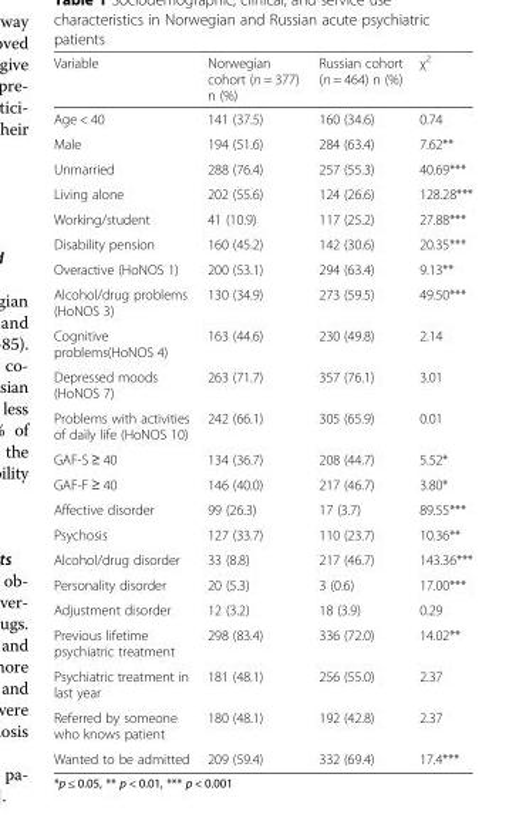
<table><thead><tr><td>Variable</td><td>Norwegian cohort (n = 377) n (%)</td><td>Russian cohort (n = 464) n (%)</td><td>χ<sup>2</sup></td></tr></thead><tbody><tr><td>Age &lt; 40</td><td>141 (37.5)</td><td>160 (34.6)</td><td>0.74</td></tr><tr><td>Male</td><td>194 (51.6)</td><td>284 (63.4)</td><td>7.62**</td></tr><tr><td>Unmarried</td><td>288 (76.4)</td><td>257 (55.3)</td><td>40.69***</td></tr><tr><td>Living alone</td><td>202 (55.6)</td><td>124 (26.6)</td><td>128.28***</td></tr><tr><td>Working/student</td><td>41 (10.9)</td><td>117 (25.2)</td><td>27.88***</td></tr><tr><td>Disability pension</td><td>160 (45.2)</td><td>142 (30.6)</td><td>20.35***</td></tr><tr><td>Overactive (HoNOS 1)</td><td>200 (53.1)</td><td>294 (63.4)</td><td>9.13**</td></tr><tr><td>Alcohol/drug problems (HoNOS 3)</td><td>130 (34.9)</td><td>273 (59.5)</td><td>49.50***</td></tr><tr><td>Cognitive problems(HoNOS 4)</td><td>163 (44.6)</td><td>230 (49.8)</td><td>2.14</td></tr><tr><td>Depressed moods (HoNOS 7)</td><td>263 (71.7)</td><td>357 (76.1)</td><td>3.01</td></tr><tr><td>Problems with activities of daily life (HoNOS 10)</td><td>242 (66.1)</td><td>305 (65.9)</td><td>0.01</td></tr><tr><td>GAF-S ≥ 40</td><td>134 (36.7)</td><td>208 (44.7)</td><td>5.52*</td></tr><tr><td>GAF-F ≥ 40</td><td>146 (40.0)</td><td>217 (46.7)</td><td>3.80*</td></tr><tr><td>Affective disorder</td><td>99 (26.3)</td><td>17 (3.7)</td><td>89.55***</td></tr><tr><td>Psychosis</td><td>127 (33.7)</td><td>110 (23.7)</td><td>10.36**</td></tr><tr><td>Alcohol/drug disorder</td><td>33 (8.8)</td><td>217 (46.7)</td><td>143.36***</td></tr><tr><td>Personality disorder</td><td>20 (5.3)</td><td>3 (0.6)</td><td>17.00***</td></tr><tr><td>Adjustment disorder</td><td>12 (3.2)</td><td>18 (3.9)</td><td>0.29</td></tr><tr><td>Previous lifetime psychiatric treatment</td><td>298 (83.4)</td><td>336 (72.0)</td><td>14.02**</td></tr><tr><td>Psychiatric treatment in last year</td><td>181 (48.1)</td><td>256 (55.0)</td><td>2.37</td></tr><tr><td>Referred by someone who knows patient</td><td>180 (48.1)</td><td>192 (42.8)</td><td>2.37</td></tr><tr><td>Wanted to be admitted</td><td>209 (59.4)</td><td>332 (69.4)</td><td>17.4***</td></tr></tbody></table>